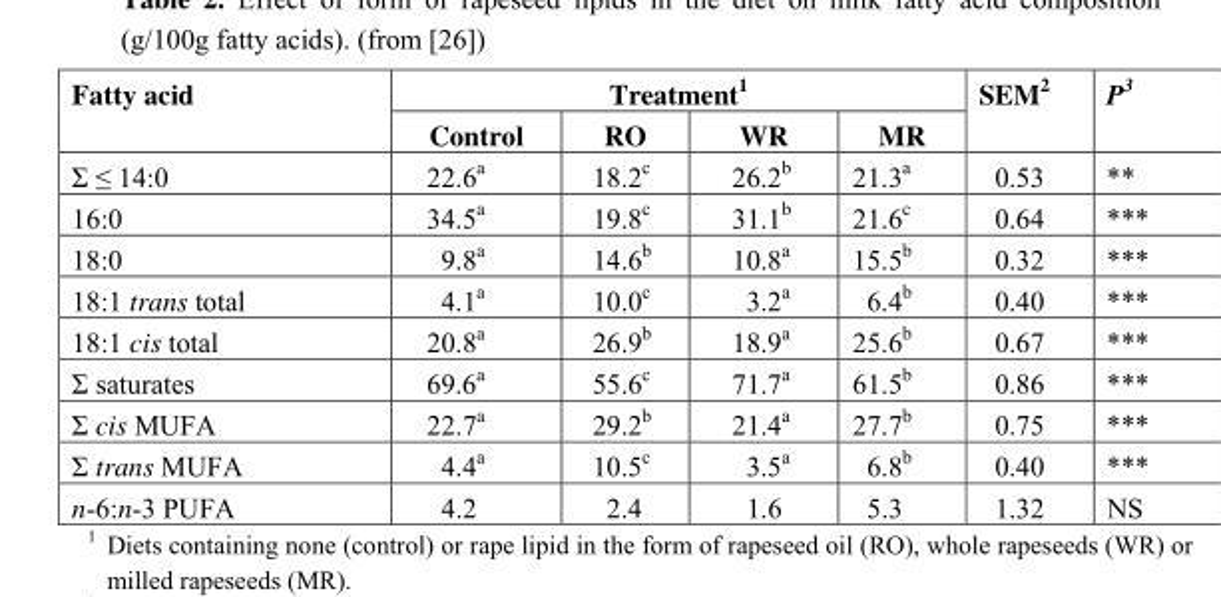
<table><thead><tr><td rowspan="2">Fatty acid</td><td colspan="4">Treatment<sup>1</sup></td><td rowspan="2">SEM<sup>2</sup></td><td rowspan="2">P<sup>3</sup></td></tr><tr><td>Control</td><td>RO</td><td>WR</td><td>MR</td></tr></thead><tbody><tr><td>Σ ≤ 14:0</td><td>22.6<sup>a</sup></td><td>18.2<sup>c</sup></td><td>26.2<sup>b</sup></td><td>21.3<sup>a</sup></td><td>0.53</td><td>**</td></tr><tr><td>16:0</td><td>34.5<sup>a</sup></td><td>19.8<sup>c</sup></td><td>31.1<sup>b</sup></td><td>21.6<sup>c</sup></td><td>0.64</td><td>***</td></tr><tr><td>18:0</td><td>9.8<sup>a</sup></td><td>14.6<sup>b</sup></td><td>10.8<sup>a</sup></td><td>15.5<sup>b</sup></td><td>0.32</td><td>***</td></tr><tr><td>18:1 trans total</td><td>4.1<sup>a</sup></td><td>10.0<sup>c</sup></td><td>3.2<sup>a</sup></td><td>6.4<sup>b</sup></td><td>0.40</td><td>***</td></tr><tr><td>18:1 cis total</td><td>20.8<sup>a</sup></td><td>26.9<sup>b</sup></td><td>18.9<sup>a</sup></td><td>25.6<sup>b</sup></td><td>0.67</td><td>***</td></tr><tr><td>Σ saturates</td><td>69.6<sup>a</sup></td><td>55.6<sup>c</sup></td><td>71.7<sup>a</sup></td><td>61.5<sup>b</sup></td><td>0.86</td><td>***</td></tr><tr><td>Σ cis MUFA</td><td>22.7<sup>a</sup></td><td>29.2<sup>b</sup></td><td>21.4<sup>a</sup></td><td>27.7<sup>b</sup></td><td>0.75</td><td>***</td></tr><tr><td>Σ trans MUFA</td><td>4.4<sup>a</sup></td><td>10.5<sup>c</sup></td><td>3.5<sup>a</sup></td><td>6.8<sup>b</sup></td><td>0.40</td><td>***</td></tr><tr><td>n-6:n-3 PUFA</td><td>4.2</td><td>2.4</td><td>1.6</td><td>5.3</td><td>1.32</td><td>NS</td></tr></tbody></table>